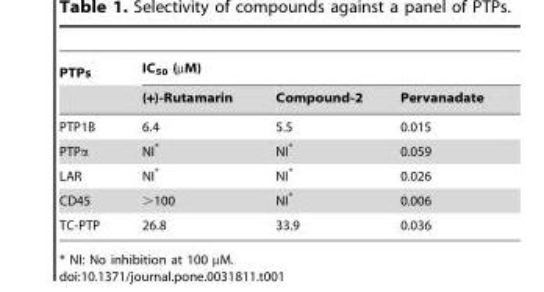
<table><thead><tr><td rowspan="2">PTPs</td><td colspan="3">IC<sub>50</sub> (µM)</td></tr><tr><td>(+)-Rutamarin</td><td>Compound-2</td><td>Pervanadate</td></tr></thead><tbody><tr><td>PTP1B</td><td>6.4</td><td>5.5</td><td>0.015</td></tr><tr><td>PTPα</td><td>NI*</td><td>NI*</td><td>0.059</td></tr><tr><td>LAR</td><td>NI*</td><td>NI*</td><td>0.026</td></tr><tr><td>CD45</td><td>&gt;100</td><td>NI*</td><td>0.006</td></tr><tr><td>TC-PTP</td><td>26.8</td><td>33.9</td><td>0.036</td></tr></tbody></table>